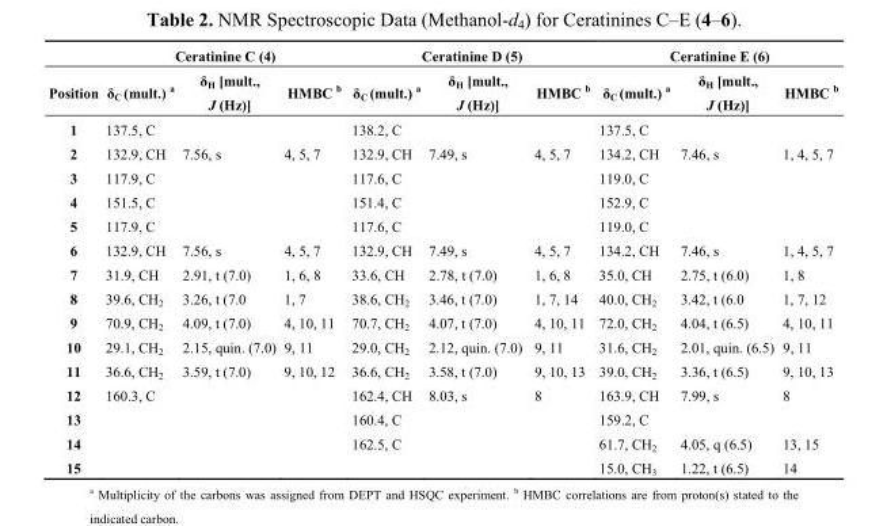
<table><thead><tr><td rowspan="2">Position</td><td colspan="3">Ceratinine C (4)</td><td colspan="3">Ceratinine D (5)</td><td colspan="3">Ceratinine E (6)</td></tr><tr><td>δ<sub>C</sub> (mult.) <sup>a</sup></td><td>δ<sub>H</sub> [mult., J (Hz)]</td><td>HMBC <sup>b</sup></td><td>δ<sub>C</sub> (mult.) <sup>a</sup></td><td>δ<sub>H</sub> [mult., J (Hz)]</td><td>HMBC <sup>b</sup></td><td>δ<sub>C</sub> (mult.) <sup>a</sup></td><td>δ<sub>H</sub> [mult., J (Hz)]</td><td>HMBC <sup>b</sup></td></tr></thead><tbody><tr><td>1</td><td>137.5, C</td><td></td><td></td><td>138.2, C</td><td></td><td></td><td>137.5, C</td><td></td><td></td></tr><tr><td>2</td><td>132.9, CH</td><td>7.56, s</td><td>4, 5, 7</td><td>132.9, CH</td><td>7.49, s</td><td>4, 5, 7</td><td>134.2, CH</td><td>7.46, s</td><td>1, 4, 5, 7</td></tr><tr><td>3</td><td>117.9, C</td><td></td><td></td><td>117.6, C</td><td></td><td></td><td>119.0, C</td><td></td><td></td></tr><tr><td>4</td><td>151.5, C</td><td></td><td></td><td>151.4, C</td><td></td><td></td><td>152.9, C</td><td></td><td></td></tr><tr><td>5</td><td>117.9, C</td><td></td><td></td><td>117.6, C</td><td></td><td></td><td>119.0, C</td><td></td><td></td></tr><tr><td>6</td><td>132.9, CH</td><td>7.56, s</td><td>4, 5, 7</td><td>132.9, CH</td><td>7.49, s</td><td>4, 5, 7</td><td>134.2, CH</td><td>7.46, s</td><td>1, 4, 5, 7</td></tr><tr><td>7</td><td>31.9, CH</td><td>2.91, t (7.0)</td><td>1, 6, 8</td><td>33.6, CH</td><td>2.78, t (7.0)</td><td>1, 6, 8</td><td>35.0, CH</td><td>2.75, t (6.0)</td><td>1, 8</td></tr><tr><td>8</td><td>39.6, CH<sub>2</sub></td><td>3.26, t (7.0</td><td>1, 7</td><td>38.6, CH<sub>2</sub></td><td>3.46, t (7.0)</td><td>1, 7, 14</td><td>40.0, CH<sub>2</sub></td><td>3.42, t (6.0</td><td>1, 7, 12</td></tr><tr><td>9</td><td>70.9, CH<sub>2</sub></td><td>4.09, t (7.0)</td><td>4, 10, 11</td><td>70.7, CH<sub>2</sub></td><td>4.07, t (7.0)</td><td>4, 10, 11</td><td>72.0, CH<sub>2</sub></td><td>4.04, t (6.5)</td><td>4, 10, 11</td></tr><tr><td>10</td><td>29.1, CH<sub>2</sub></td><td>2.15, quin. (7.0)</td><td>9, 11</td><td>29.0, CH<sub>2</sub></td><td>2.12, quin. (7.0)</td><td>9, 11</td><td>31.6, CH<sub>2</sub></td><td>2.01, quin. (6.5)</td><td>9, 11</td></tr><tr><td>11</td><td>36.6, CH<sub>2</sub></td><td>3.59, t (7.0)</td><td>9, 10, 12</td><td>36.6, CH<sub>2</sub></td><td>3.58, t (7.0)</td><td>9, 10, 13</td><td>39.0, CH<sub>2</sub></td><td>3.36, t (6.5)</td><td>9, 10, 13</td></tr><tr><td>12</td><td>160.3, C</td><td></td><td></td><td>162.4, CH</td><td>8.03, s</td><td>8</td><td>163.9, CH</td><td>7.99, s</td><td>8</td></tr><tr><td>13</td><td></td><td></td><td></td><td>160.4, C</td><td></td><td></td><td>159.2, C</td><td></td><td></td></tr><tr><td>14</td><td></td><td></td><td></td><td>162.5, C</td><td></td><td></td><td>61.7, CH<sub>2</sub></td><td>4.05, q (6.5)</td><td>13, 15</td></tr><tr><td>15</td><td></td><td></td><td></td><td></td><td></td><td></td><td>15.0, CH<sub>3</sub></td><td>1.22, t (6.5)</td><td>14</td></tr></tbody></table>